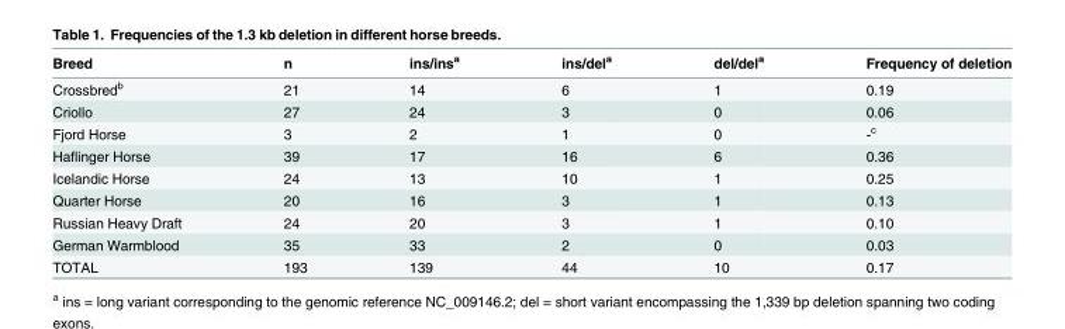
<table><thead><tr><td>Breed</td><td>n</td><td>ins/ins<sup>a</sup></td><td>ins/del<sup>a</sup></td><td>del/del<sup>a</sup></td><td>Frequency of deletion</td></tr></thead><tbody><tr><td>Crossbred<sup>b</sup></td><td>21</td><td>14</td><td>6</td><td>1</td><td>0.19</td></tr><tr><td>Criollo</td><td>27</td><td>24</td><td>3</td><td>0</td><td>0.06</td></tr><tr><td>Fjord Horse</td><td>3</td><td>2</td><td>1</td><td>0</td><td>-<sup>c</sup></td></tr><tr><td>Haflinger Horse</td><td>39</td><td>17</td><td>16</td><td>6</td><td>0.36</td></tr><tr><td>Icelandic Horse</td><td>24</td><td>13</td><td>10</td><td>1</td><td>0.25</td></tr><tr><td>Quarter Horse</td><td>20</td><td>16</td><td>3</td><td>1</td><td>0.13</td></tr><tr><td>Russian Heavy Draft</td><td>24</td><td>20</td><td>3</td><td>1</td><td>0.10</td></tr><tr><td>German Warmblood</td><td>35</td><td>33</td><td>2</td><td>0</td><td>0.03</td></tr><tr><td>TOTAL</td><td>193</td><td>139</td><td>44</td><td>10</td><td>0.17</td></tr></tbody></table>